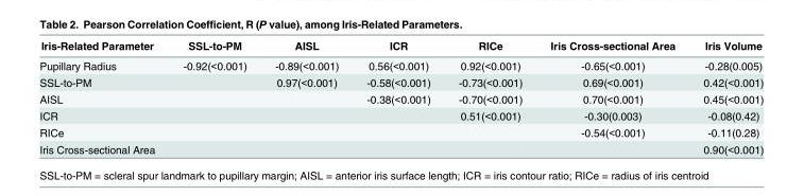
<table><thead><tr><td>Iris-Related Parameter</td><td>SSL-to-PM</td><td>AISL</td><td>ICR</td><td>RICe</td><td>Iris Cross-sectional Area</td><td>Iris Volume</td></tr></thead><tbody><tr><td>Pupillary Radius</td><td>-0.92(&lt;0.001)</td><td>-0.89(&lt;0.001)</td><td>0.56(&lt;0.001)</td><td>0.92(&lt;0.001)</td><td>-0.65(&lt;0.001)</td><td>-0.28(0.005)</td></tr><tr><td>SSL-to-PM</td><td></td><td>0.97(&lt;0.001)</td><td>-0.58(&lt;0.001)</td><td>-0.73(&lt;0.001)</td><td>0.69(&lt;0.001)</td><td>0.42(&lt;0.001)</td></tr><tr><td>AISL</td><td></td><td></td><td>-0.38(&lt;0.001)</td><td>-0.70(&lt;0.001)</td><td>0.70(&lt;0.001)</td><td>0.45(&lt;0.001)</td></tr><tr><td>ICR</td><td></td><td></td><td></td><td>0.51(&lt;0.001)</td><td>-0.30(0.003)</td><td>-0.08(0.42)</td></tr><tr><td>RICe</td><td></td><td></td><td></td><td></td><td>-0.54(&lt;0.001)</td><td>-0.11(0.28)</td></tr><tr><td>Iris Cross-sectional Area</td><td></td><td></td><td></td><td></td><td></td><td>0.90(&lt;0.001)</td></tr></tbody></table>